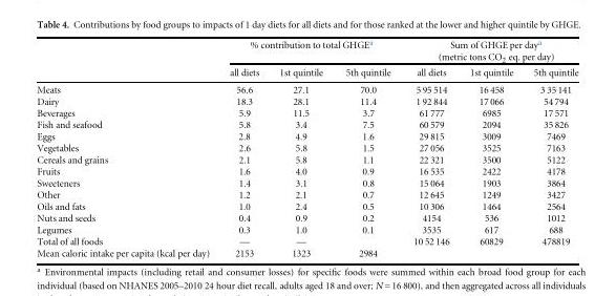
<table><thead><tr><td rowspan="3"></td><td colspan="3">% contribution to total GHGE<sup>a</sup></td><td rowspan="2" colspan="3">Sum of GHGE per day<sup>a</sup> (metric tons CO<sub>2</sub> eq. per day)</td></tr><tr><td rowspan="2">all diets</td><td rowspan="2">1st quintile</td><td rowspan="2">5th quintile</td></tr><tr><td>all diets</td><td>1st quintile</td><td>5th quintile</td></tr></thead><tbody><tr><td>Meats</td><td>56.6</td><td>27.1</td><td>70.0</td><td>5 95 514</td><td>16 458</td><td>3 35 141</td></tr><tr><td>Dairy</td><td>18.3</td><td>28.1</td><td>11.4</td><td>1 92 844</td><td>17 066</td><td>54 794</td></tr><tr><td>Beverages</td><td>5.9</td><td>11.5</td><td>3.7</td><td>61 777</td><td>6985</td><td>17 571</td></tr><tr><td>Fish and seafood</td><td>5.8</td><td>3.4</td><td>7.5</td><td>60 579</td><td>2094</td><td>35 826</td></tr><tr><td>Eggs</td><td>2.8</td><td>4.9</td><td>1.6</td><td>29 815</td><td>3009</td><td>7469</td></tr><tr><td>Vegetables</td><td>2.6</td><td>5.8</td><td>1.5</td><td>27 056</td><td>3525</td><td>7163</td></tr><tr><td>Cereals and grains</td><td>2.1</td><td>5.8</td><td>1.1</td><td>22 321</td><td>3500</td><td>5122</td></tr><tr><td>Fruits</td><td>1.6</td><td>4.0</td><td>0.9</td><td>16 535</td><td>2422</td><td>4178</td></tr><tr><td>Sweeteners</td><td>1.4</td><td>3.1</td><td>0.8</td><td>15 064</td><td>1903</td><td>3864</td></tr><tr><td>Other</td><td>1.2</td><td>2.1</td><td>0.7</td><td>12 645</td><td>1249</td><td>3427</td></tr><tr><td>Oils and fats</td><td>1.0</td><td>2.4</td><td>0.5</td><td>10 306</td><td>1464</td><td>2564</td></tr><tr><td>Nuts and seeds</td><td>0.4</td><td>0.9</td><td>0.2</td><td>4154</td><td>536</td><td>1012</td></tr><tr><td>Legumes</td><td>0.3</td><td>1.0</td><td>0.1</td><td>3535</td><td>617</td><td>688</td></tr><tr><td>Total of all foods</td><td>—</td><td>—</td><td></td><td>10 52 146</td><td>60829</td><td>478819</td></tr><tr><td>Mean caloric intake per capita (kcal per day)</td><td>2153</td><td>1323</td><td>2984</td><td></td><td></td><td></td></tr></tbody></table>